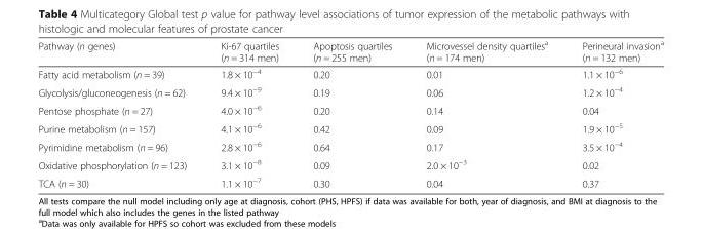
<table><thead><tr><td>Pathway (n genes)</td><td>Ki-67 quartiles (n = 314 men)</td><td>Apoptosis quartiles (n = 255 men)</td><td>Microvessel density quartiles<sup>a</sup> (n = 174 men)</td><td>Perineural invasion<sup>a</sup> (n = 132 men)</td></tr></thead><tbody><tr><td>Fatty acid metabolism (n = 39)</td><td>1.8 × 10<sup>−4</sup></td><td>0.20</td><td>0.01</td><td>1.1 × 10<sup>−6</sup></td></tr><tr><td>Glycolysis/gluconeogenesis (n = 62)</td><td>9.4 × 10<sup>−9</sup></td><td>0.19</td><td>0.06</td><td>1.2 × 10<sup>−4</sup></td></tr><tr><td>Pentose phosphate (n = 27)</td><td>4.0 × 10<sup>−6</sup></td><td>0.20</td><td>0.14</td><td>0.04</td></tr><tr><td>Purine metabolism (n = 157)</td><td>4.1 × 10<sup>−6</sup></td><td>0.42</td><td>0.09</td><td>1.9 × 10<sup>−5</sup></td></tr><tr><td>Pyrimidine metabolism (n = 96)</td><td>2.8 × 10<sup>−6</sup></td><td>0.64</td><td>0.17</td><td>3.5 × 10<sup>−4</sup></td></tr><tr><td>Oxidative phosphorylation (n = 123)</td><td>3.1 × 10<sup>−8</sup></td><td>0.09</td><td>2.0 × 10<sup>−3</sup></td><td>0.02</td></tr><tr><td>TCA (n = 30)</td><td>1.1 × 10<sup>−7</sup></td><td>0.30</td><td>0.04</td><td>0.37</td></tr></tbody></table>